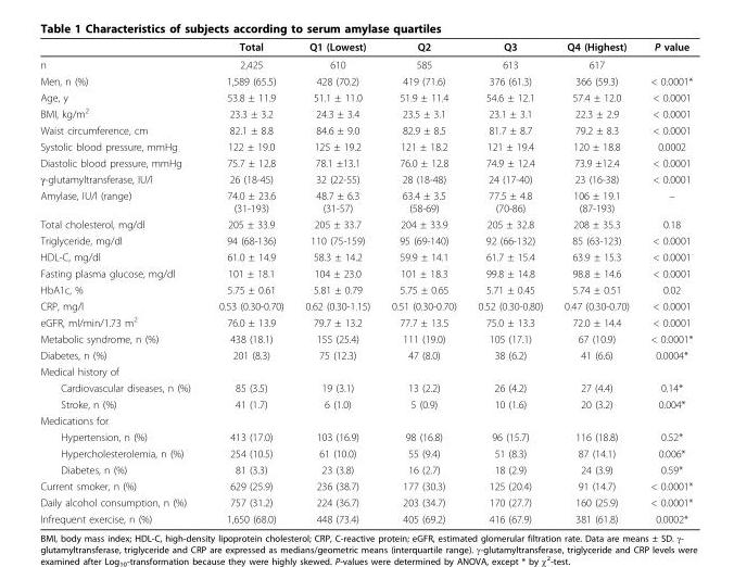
<table><thead><tr><td></td><td>Total</td><td>Q1 (Lowest)</td><td>Q2</td><td>Q3</td><td>Q4 (Highest)</td><td>P value</td></tr></thead><tbody><tr><td>n</td><td>2,425</td><td>610</td><td>585</td><td>613</td><td>617</td><td></td></tr><tr><td>Men, n (%)</td><td>1,589 (65.5)</td><td>428 (70.2)</td><td>419 (71.6)</td><td>376 (61.3)</td><td>366 (59.3)</td><td>&lt; 0.0001*</td></tr><tr><td>Age, y</td><td>53.8 ± 11.9</td><td>51.1 ± 11.0</td><td>51.9 ± 11.4</td><td>54.6 ± 12.1</td><td>57.4 ± 12.0</td><td>&lt; 0.0001</td></tr><tr><td>BMI, kg/m<sup>2</sup></td><td>23.3 ± 3.2</td><td>24.3 ± 3.4</td><td>23.5 ± 3.1</td><td>23.1 ± 3.1</td><td>22.3 ± 2.9</td><td>&lt; 0.0001</td></tr><tr><td>Waist circumference, cm</td><td>82.1 ± 8.8</td><td>84.6 ± 9.0</td><td>82.9 ± 8.5</td><td>81.7 ± 8.7</td><td>79.2 ± 8.3</td><td>&lt; 0.0001</td></tr><tr><td>Systolic blood pressure, mmHg</td><td>122 ± 19.0</td><td>125 ± 19.2</td><td>121 ± 18.2</td><td>121 ± 19.4</td><td>120 ± 18.8</td><td>0.0002</td></tr><tr><td>Diastolic blood pressure, mmHg</td><td>75.7 ± 12.8</td><td>78.1 ±13.1</td><td>76.0 ± 12.8</td><td>74.9 ± 12.4</td><td>73.9 ±12.4</td><td>&lt; 0.0001</td></tr><tr><td>γ-glutamyltransferase, IU/l</td><td>26 (18-45)</td><td>32 (22-55)</td><td>28 (18-48)</td><td>24 (17-40)</td><td>23 (16-38)</td><td>&lt; 0.0001</td></tr><tr><td>Amylase, IU/l (range)</td><td>74.0 ± 23.6 (31-193)</td><td>48.7 ± 6.3 (31-57)</td><td>63.4 ± 3.5 (58-69)</td><td>77.5 ± 4.8 (70-86)</td><td>106 ± 19.1 (87-193)</td><td>–</td></tr><tr><td>Total cholesterol, mg/dl</td><td>205 ± 33.9</td><td>205 ± 33.7</td><td>204 ± 33.9</td><td>205 ± 32.8</td><td>208 ± 35.3</td><td>0.18</td></tr><tr><td>Triglyceride, mg/dl</td><td>94 (68-136)</td><td>110 (75-159)</td><td>95 (69-140)</td><td>92 (66-132)</td><td>85 (63-123)</td><td>&lt; 0.0001</td></tr><tr><td>HDL-C, mg/dl</td><td>61.0 ± 14.9</td><td>58.3 ± 14.2</td><td>59.9 ± 14.1</td><td>61.7 ± 15.4</td><td>63.9 ± 15.3</td><td>&lt; 0.0001</td></tr><tr><td>Fasting plasma glucose, mg/dl</td><td>101 ± 18.1</td><td>104 ± 23.0</td><td>101 ± 18.3</td><td>99.8 ± 14.8</td><td>98.8 ± 14.6</td><td>&lt; 0.0001</td></tr><tr><td>HbA1c, %</td><td>5.75 ± 0.61</td><td>5.81 ± 0.79</td><td>5.75 ± 0.65</td><td>5.71 ± 0.45</td><td>5.74 ± 0.51</td><td>0.02</td></tr><tr><td>CRP, mg/l</td><td>0.53 (0.30-0.70)</td><td>0.62 (0.30-1.15)</td><td>0.51 (0.30-0.70)</td><td>0.52 (0.30-0.80)</td><td>0.47 (0.30-0.70)</td><td>&lt; 0.0001</td></tr><tr><td>eGFR, ml/min/1.73 m<sup>2</sup></td><td>76.0 ± 13.9</td><td>79.7 ± 13.2</td><td>77.7 ± 13.5</td><td>75.0 ± 13.3</td><td>72.0 ± 14.4</td><td>&lt; 0.0001</td></tr><tr><td>Metabolic syndrome, n (%)</td><td>438 (18.1)</td><td>155 (25.4)</td><td>111 (19.0)</td><td>105 (17.1)</td><td>67 (10.9)</td><td>&lt; 0.0001*</td></tr><tr><td>Diabetes, n (%)</td><td>201 (8.3)</td><td>75 (12.3)</td><td>47 (8.0)</td><td>38 (6.2)</td><td>41 (6.6)</td><td>0.0004*</td></tr><tr><td colspan="7">Medical history of</td></tr><tr><td>Cardiovascular diseases, n (%)</td><td>85 (3.5)</td><td>19 (3.1)</td><td>13 (2.2)</td><td>26 (4.2)</td><td>27 (4.4)</td><td>0.14*</td></tr><tr><td>Stroke, n (%)</td><td>41 (1.7)</td><td>6 (1.0)</td><td>5 (0.9)</td><td>10 (1.6)</td><td>20 (3.2)</td><td>0.004*</td></tr><tr><td colspan="7">Medications for</td></tr><tr><td>Hypertension, n (%)</td><td>413 (17.0)</td><td>103 (16.9)</td><td>98 (16.8)</td><td>96 (15.7)</td><td>116 (18.8)</td><td>0.52*</td></tr><tr><td>Hypercholesterolemia, n (%)</td><td>254 (10.5)</td><td>61 (10.0)</td><td>55 (9.4)</td><td>51 (8.3)</td><td>87 (14.1)</td><td>0.006*</td></tr><tr><td>Diabetes, n (%)</td><td>81 (3.3)</td><td>23 (3.8)</td><td>16 (2.7)</td><td>18 (2.9)</td><td>24 (3.9)</td><td>0.59*</td></tr><tr><td>Current smoker, n (%)</td><td>629 (25.9)</td><td>236 (38.7)</td><td>177 (30.3)</td><td>125 (20.4)</td><td>91 (14.7)</td><td>&lt; 0.0001*</td></tr><tr><td>Daily alcohol consumption, n (%)</td><td>757 (31.2)</td><td>224 (36.7)</td><td>203 (34.7)</td><td>170 (27.7)</td><td>160 (25.9)</td><td>&lt; 0.0001*</td></tr><tr><td>Infrequent exercise, n (%)</td><td>1,650 (68.0)</td><td>448 (73.4)</td><td>405 (69.2)</td><td>416 (67.9)</td><td>381 (61.8)</td><td>0.0002*</td></tr></tbody></table>